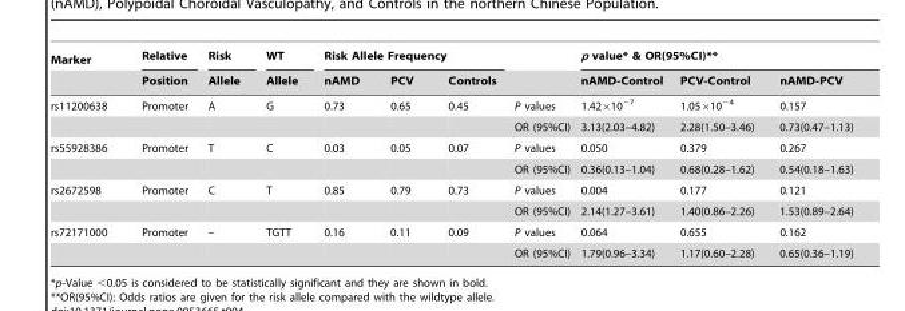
<table><thead><tr><td rowspan="2">Marker</td><td rowspan="2">Relative Position</td><td rowspan="2">Risk Allele</td><td rowspan="2">WT Allele</td><td colspan="3">Risk Allele Frequency</td><td rowspan="2"></td><td colspan="3">p value* &amp; OR(95%CI)**</td></tr><tr><td>nAMD</td><td>PCV</td><td>Controls</td><td>nAMD-Control</td><td>PCV-Control</td><td>nAMD-PCV</td></tr></thead><tbody><tr><td rowspan="2">rs11200638</td><td>Promoter</td><td>A</td><td>G</td><td>0.73</td><td>0.65</td><td>0.45</td><td>P values</td><td>1.42×10<sup>−7</sup></td><td>1.05×10<sup>−4</sup></td><td>0.157</td></tr><tr><td></td><td></td><td></td><td></td><td></td><td></td><td>OR (95%CI)</td><td>3.13(2.03–4.82)</td><td>2.28(1.50–3.46)</td><td>0.73(0.47–1.13)</td></tr><tr><td rowspan="2">rs55928386</td><td>Promoter</td><td>T</td><td>C</td><td>0.03</td><td>0.05</td><td>0.07</td><td>P values</td><td>0.050</td><td>0.379</td><td>0.267</td></tr><tr><td></td><td></td><td></td><td></td><td></td><td></td><td>OR (95%CI)</td><td>0.36(0.13–1.04)</td><td>0.68(0.28–1.62)</td><td>0.54(0.18–1.63)</td></tr><tr><td rowspan="2">rs2672598</td><td>Promoter</td><td>C</td><td>T</td><td>0.85</td><td>0.79</td><td>0.73</td><td>P values</td><td>0.004</td><td>0.177</td><td>0.121</td></tr><tr><td></td><td></td><td></td><td></td><td></td><td></td><td>OR (95%CI)</td><td>2.14(1.27–3.61)</td><td>1.40(0.86–2.26)</td><td>1.53(0.89–2.64)</td></tr><tr><td rowspan="2">rs72171000</td><td>Promoter</td><td>–</td><td>TGTT</td><td>0.16</td><td>0.11</td><td>0.09</td><td>P values</td><td>0.064</td><td>0.655</td><td>0.162</td></tr><tr><td></td><td></td><td></td><td></td><td></td><td></td><td>OR (95%CI)</td><td>1.79(0.96–3.34)</td><td>1.17(0.60–2.28)</td><td>0.65(0.36–1.19)</td></tr></tbody></table>